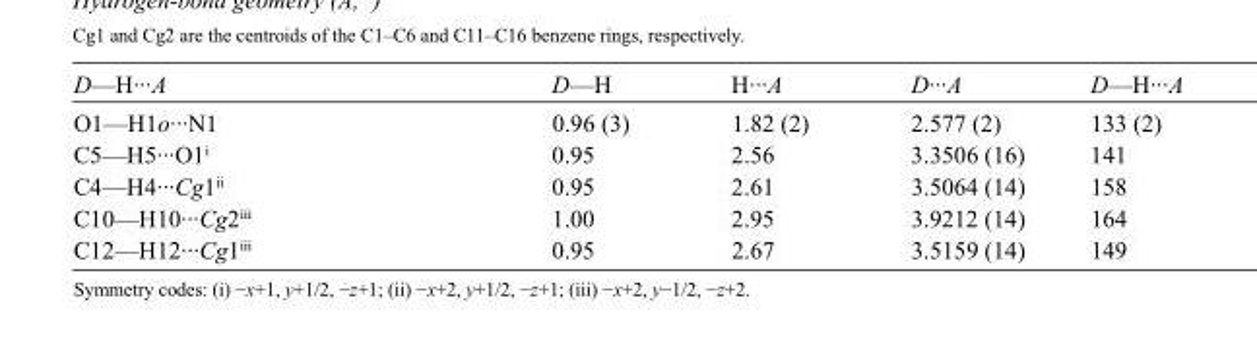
<table><tbody><tr><td>D—H···A</td><td>D—H</td><td>H···A</td><td>D···A</td><td>D—H···A</td></tr><tr><td>O1—H1o···N1</td><td>0.96 (3)</td><td>1.82 (2)</td><td>2.577 (2)</td><td>133 (2)</td></tr><tr><td>C5—H5···O1<sup>i</sup></td><td>0.95</td><td>2.56</td><td>3.3506 (16)</td><td>141</td></tr><tr><td>C4—H4···Cg1<sup>ii</sup></td><td>0.95</td><td>2.61</td><td>3.5064 (14)</td><td>158</td></tr><tr><td>C10—H10···Cg2<sup>iii</sup></td><td>1.00</td><td>2.95</td><td>3.9212 (14)</td><td>164</td></tr><tr><td>C12—H12···Cg1<sup>iii</sup></td><td>0.95</td><td>2.67</td><td>3.5159 (14)</td><td>149</td></tr></tbody></table>